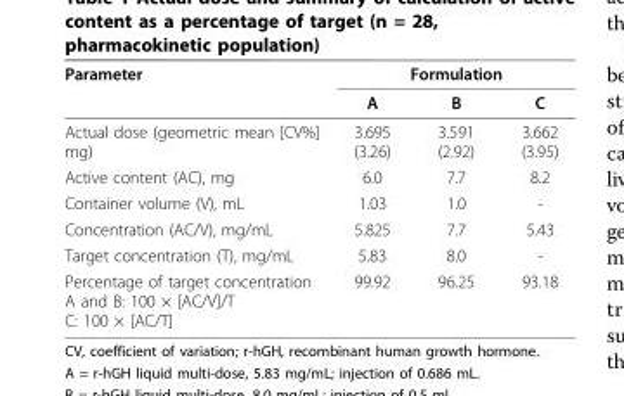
<table><thead><tr><td rowspan="2">Parameter</td><td colspan="3">Formulation</td></tr><tr><td>A</td><td>B</td><td>C</td></tr></thead><tbody><tr><td>Actual dose (geometric mean [CV%] mg)</td><td>3.695 (3.26)</td><td>3.591 (2.92)</td><td>3.662 (3.95)</td></tr><tr><td>Active content (AC), mg</td><td>6.0</td><td>7.7</td><td>8.2</td></tr><tr><td>Container volume (V), mL</td><td>1.03</td><td>1.0</td><td>-</td></tr><tr><td>Concentration (AC/V), mg/mL</td><td>5.825</td><td>7.7</td><td>5.43</td></tr><tr><td>Target concentration (T), mg/mL</td><td>5.83</td><td>8.0</td><td>-</td></tr><tr><td>Percentage of target concentration A and B: 100 × [AC/V]/T C: 100 × [AC/T]</td><td>99.92</td><td>96.25</td><td>93.18</td></tr></tbody></table>